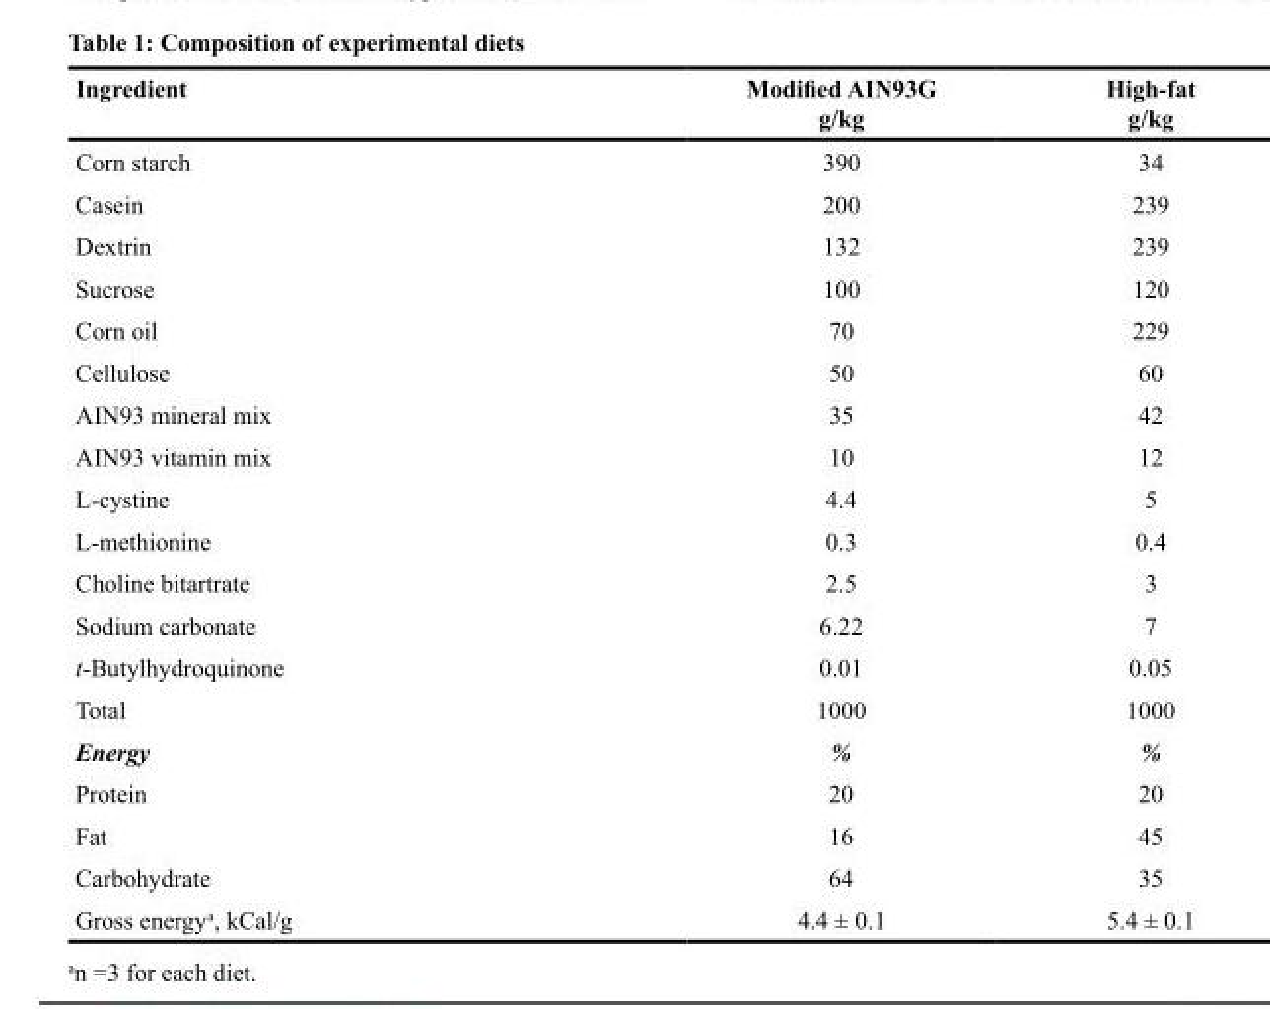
<table><thead><tr><td>Ingredient</td><td>Modified AIN93G g/kg</td><td>High-fat g/kg</td></tr></thead><tbody><tr><td>Corn starch</td><td>390</td><td>34</td></tr><tr><td>Casein</td><td>200</td><td>239</td></tr><tr><td>Dextrin</td><td>132</td><td>239</td></tr><tr><td>Sucrose</td><td>100</td><td>120</td></tr><tr><td>Corn oil</td><td>70</td><td>229</td></tr><tr><td>Cellulose</td><td>50</td><td>60</td></tr><tr><td>AIN93 mineral mix</td><td>35</td><td>42</td></tr><tr><td>AIN93 vitamin mix</td><td>10</td><td>12</td></tr><tr><td>L-cystine</td><td>4.4</td><td>5</td></tr><tr><td>L-methionine</td><td>0.3</td><td>0.4</td></tr><tr><td>Choline bitartrate</td><td>2.5</td><td>3</td></tr><tr><td>Sodium carbonate</td><td>6.22</td><td>7</td></tr><tr><td>t-Butylhydroquinone</td><td>0.01</td><td>0.05</td></tr><tr><td>Total</td><td>1000</td><td>1000</td></tr><tr><td>Energy</td><td>%</td><td>%</td></tr><tr><td>Protein</td><td>20</td><td>20</td></tr><tr><td>Fat</td><td>16</td><td>45</td></tr><tr><td>Carbohydrate</td><td>64</td><td>35</td></tr><tr><td>Gross energy<sup>a</sup>, kCal/g</td><td>4.4 ± 0.1</td><td>5.4 ± 0.1</td></tr></tbody></table>